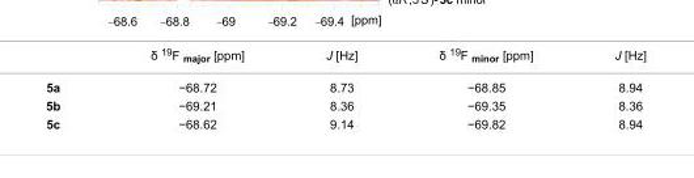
<table><thead><tr><td></td><td>δ <sup>19</sup>F <sub>major</sub> [ppm]</td><td>J [Hz]</td><td>δ <sup>19</sup>F <sub>minor</sub> [ppm]</td><td>J [Hz]</td></tr></thead><tbody><tr><td>5a</td><td>−68.72</td><td>8.73</td><td>−68.85</td><td>8.94</td></tr><tr><td>5b</td><td>−69.21</td><td>8.36</td><td>−69.35</td><td>8.36</td></tr><tr><td>5c</td><td>−68.62</td><td>9.14</td><td>−69.82</td><td>8.94</td></tr></tbody></table>